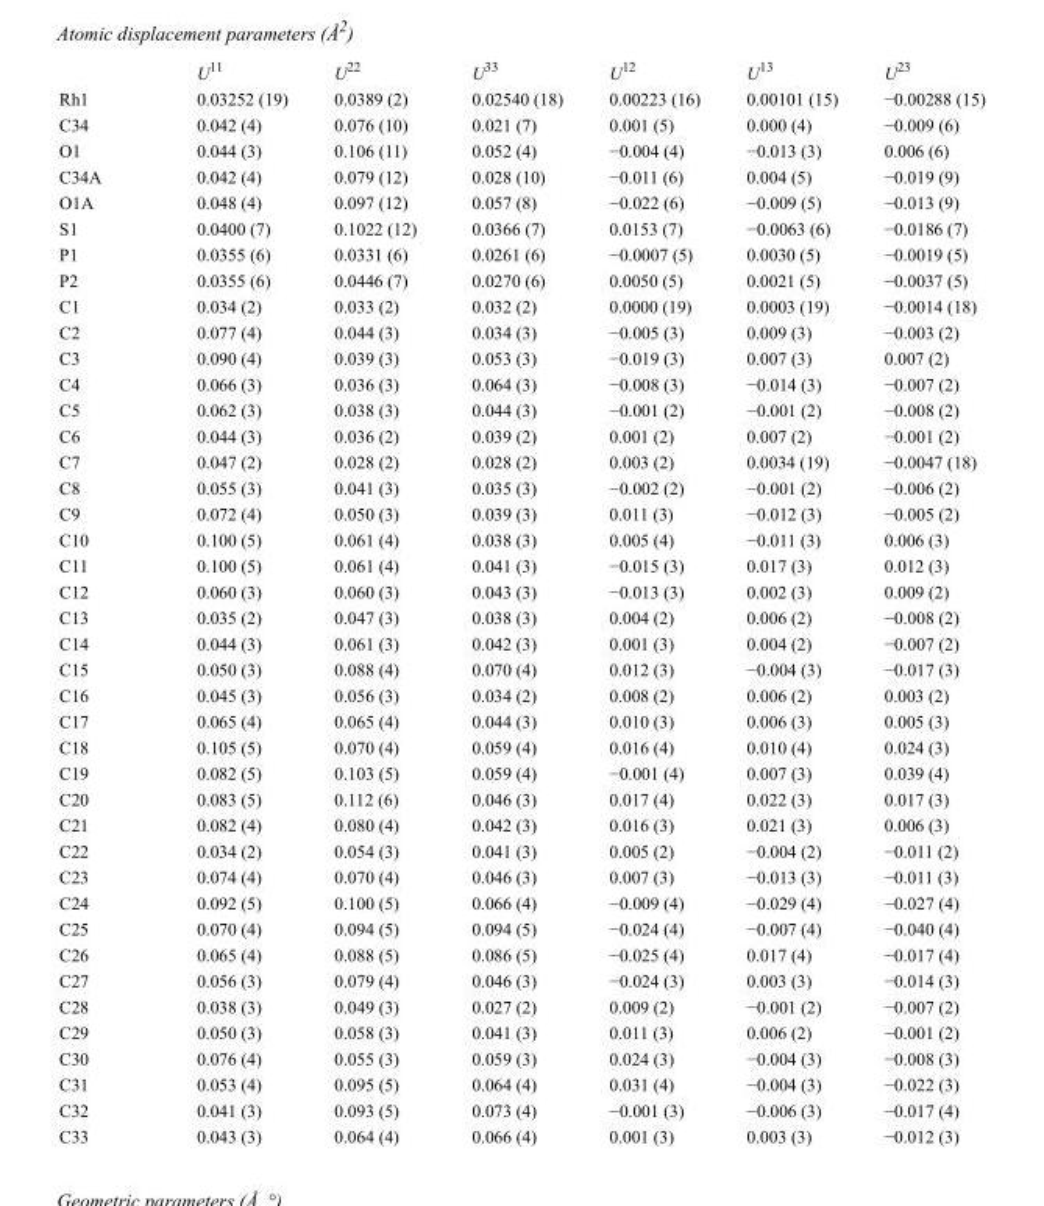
<table><thead><tr><td></td><td>U<sup>11</sup></td><td>U<sup>22</sup></td><td>U<sup>33</sup></td><td>U<sup>12</sup></td><td>U<sup>13</sup></td><td>U<sup>23</sup></td></tr></thead><tbody><tr><td>Rh1</td><td>0.03252 (19)</td><td>0.0389 (2)</td><td>0.02540 (18)</td><td>0.00223 (16)</td><td>0.00101 (15)</td><td>−0.00288 (15)</td></tr><tr><td>C34</td><td>0.042 (4)</td><td>0.076 (10)</td><td>0.021 (7)</td><td>0.001 (5)</td><td>0.000 (4)</td><td>−0.009 (6)</td></tr><tr><td>O1</td><td>0.044 (3)</td><td>0.106 (11)</td><td>0.052 (4)</td><td>−0.004 (4)</td><td>−0.013 (3)</td><td>0.006 (6)</td></tr><tr><td>C34A</td><td>0.042 (4)</td><td>0.079 (12)</td><td>0.028 (10)</td><td>−0.011 (6)</td><td>0.004 (5)</td><td>−0.019 (9)</td></tr><tr><td>O1A</td><td>0.048 (4)</td><td>0.097 (12)</td><td>0.057 (8)</td><td>−0.022 (6)</td><td>−0.009 (5)</td><td>−0.013 (9)</td></tr><tr><td>S1</td><td>0.0400 (7)</td><td>0.1022 (12)</td><td>0.0366 (7)</td><td>0.0153 (7)</td><td>−0.0063 (6)</td><td>−0.0186 (7)</td></tr><tr><td>P1</td><td>0.0355 (6)</td><td>0.0331 (6)</td><td>0.0261 (6)</td><td>−0.0007 (5)</td><td>0.0030 (5)</td><td>−0.0019 (5)</td></tr><tr><td>P2</td><td>0.0355 (6)</td><td>0.0446 (7)</td><td>0.0270 (6)</td><td>0.0050 (5)</td><td>0.0021 (5)</td><td>−0.0037 (5)</td></tr><tr><td>C1</td><td>0.034 (2)</td><td>0.033 (2)</td><td>0.032 (2)</td><td>0.0000 (19)</td><td>0.0003 (19)</td><td>−0.0014 (18)</td></tr><tr><td>C2</td><td>0.077 (4)</td><td>0.044 (3)</td><td>0.034 (3)</td><td>−0.005 (3)</td><td>0.009 (3)</td><td>−0.003 (2)</td></tr><tr><td>C3</td><td>0.090 (4)</td><td>0.039 (3)</td><td>0.053 (3)</td><td>−0.019 (3)</td><td>0.007 (3)</td><td>0.007 (2)</td></tr><tr><td>C4</td><td>0.066 (3)</td><td>0.036 (3)</td><td>0.064 (3)</td><td>−0.008 (3)</td><td>−0.014 (3)</td><td>−0.007 (2)</td></tr><tr><td>C5</td><td>0.062 (3)</td><td>0.038 (3)</td><td>0.044 (3)</td><td>−0.001 (2)</td><td>−0.001 (2)</td><td>−0.008 (2)</td></tr><tr><td>C6</td><td>0.044 (3)</td><td>0.036 (2)</td><td>0.039 (2)</td><td>0.001 (2)</td><td>0.007 (2)</td><td>−0.001 (2)</td></tr><tr><td>C7</td><td>0.047 (2)</td><td>0.028 (2)</td><td>0.028 (2)</td><td>0.003 (2)</td><td>0.0034 (19)</td><td>−0.0047 (18)</td></tr><tr><td>C8</td><td>0.055 (3)</td><td>0.041 (3)</td><td>0.035 (3)</td><td>−0.002 (2)</td><td>−0.001 (2)</td><td>−0.006 (2)</td></tr><tr><td>C9</td><td>0.072 (4)</td><td>0.050 (3)</td><td>0.039 (3)</td><td>0.011 (3)</td><td>−0.012 (3)</td><td>−0.005 (2)</td></tr><tr><td>C10</td><td>0.100 (5)</td><td>0.061 (4)</td><td>0.038 (3)</td><td>0.005 (4)</td><td>−0.011 (3)</td><td>0.006 (3)</td></tr><tr><td>C11</td><td>0.100 (5)</td><td>0.061 (4)</td><td>0.041 (3)</td><td>−0.015 (3)</td><td>0.017 (3)</td><td>0.012 (3)</td></tr><tr><td>C12</td><td>0.060 (3)</td><td>0.060 (3)</td><td>0.043 (3)</td><td>−0.013 (3)</td><td>0.002 (3)</td><td>0.009 (2)</td></tr><tr><td>C13</td><td>0.035 (2)</td><td>0.047 (3)</td><td>0.038 (3)</td><td>0.004 (2)</td><td>0.006 (2)</td><td>−0.008 (2)</td></tr><tr><td>C14</td><td>0.044 (3)</td><td>0.061 (3)</td><td>0.042 (3)</td><td>0.001 (3)</td><td>0.004 (2)</td><td>−0.007 (2)</td></tr><tr><td>C15</td><td>0.050 (3)</td><td>0.088 (4)</td><td>0.070 (4)</td><td>0.012 (3)</td><td>−0.004 (3)</td><td>−0.017 (3)</td></tr><tr><td>C16</td><td>0.045 (3)</td><td>0.056 (3)</td><td>0.034 (2)</td><td>0.008 (2)</td><td>0.006 (2)</td><td>0.003 (2)</td></tr><tr><td>C17</td><td>0.065 (4)</td><td>0.065 (4)</td><td>0.044 (3)</td><td>0.010 (3)</td><td>0.006 (3)</td><td>0.005 (3)</td></tr><tr><td>C18</td><td>0.105 (5)</td><td>0.070 (4)</td><td>0.059 (4)</td><td>0.016 (4)</td><td>0.010 (4)</td><td>0.024 (3)</td></tr><tr><td>C19</td><td>0.082 (5)</td><td>0.103 (5)</td><td>0.059 (4)</td><td>−0.001 (4)</td><td>0.007 (3)</td><td>0.039 (4)</td></tr><tr><td>C20</td><td>0.083 (5)</td><td>0.112 (6)</td><td>0.046 (3)</td><td>0.017 (4)</td><td>0.022 (3)</td><td>0.017 (3)</td></tr><tr><td>C21</td><td>0.082 (4)</td><td>0.080 (4)</td><td>0.042 (3)</td><td>0.016 (3)</td><td>0.021 (3)</td><td>0.006 (3)</td></tr><tr><td>C22</td><td>0.034 (2)</td><td>0.054 (3)</td><td>0.041 (3)</td><td>0.005 (2)</td><td>−0.004 (2)</td><td>−0.011 (2)</td></tr><tr><td>C23</td><td>0.074 (4)</td><td>0.070 (4)</td><td>0.046 (3)</td><td>0.007 (3)</td><td>−0.013 (3)</td><td>−0.011 (3)</td></tr><tr><td>C24</td><td>0.092 (5)</td><td>0.100 (5)</td><td>0.066 (4)</td><td>−0.009 (4)</td><td>−0.029 (4)</td><td>−0.027 (4)</td></tr><tr><td>C25</td><td>0.070 (4)</td><td>0.094 (5)</td><td>0.094 (5)</td><td>−0.024 (4)</td><td>−0.007 (4)</td><td>−0.040 (4)</td></tr><tr><td>C26</td><td>0.065 (4)</td><td>0.088 (5)</td><td>0.086 (5)</td><td>−0.025 (4)</td><td>0.017 (4)</td><td>−0.017 (4)</td></tr><tr><td>C27</td><td>0.056 (3)</td><td>0.079 (4)</td><td>0.046 (3)</td><td>−0.024 (3)</td><td>0.003 (3)</td><td>−0.014 (3)</td></tr><tr><td>C28</td><td>0.038 (3)</td><td>0.049 (3)</td><td>0.027 (2)</td><td>0.009 (2)</td><td>−0.001 (2)</td><td>−0.007 (2)</td></tr><tr><td>C29</td><td>0.050 (3)</td><td>0.058 (3)</td><td>0.041 (3)</td><td>0.011 (3)</td><td>0.006 (2)</td><td>−0.001 (2)</td></tr><tr><td>C30</td><td>0.076 (4)</td><td>0.055 (3)</td><td>0.059 (3)</td><td>0.024 (3)</td><td>−0.004 (3)</td><td>−0.008 (3)</td></tr><tr><td>C31</td><td>0.053 (4)</td><td>0.095 (5)</td><td>0.064 (4)</td><td>0.031 (4)</td><td>−0.004 (3)</td><td>−0.022 (3)</td></tr><tr><td>C32</td><td>0.041 (3)</td><td>0.093 (5)</td><td>0.073 (4)</td><td>−0.001 (3)</td><td>−0.006 (3)</td><td>−0.017 (4)</td></tr><tr><td>C33</td><td>0.043 (3)</td><td>0.064 (4)</td><td>0.066 (4)</td><td>0.001 (3)</td><td>0.003 (3)</td><td>−0.012 (3)</td></tr></tbody></table>